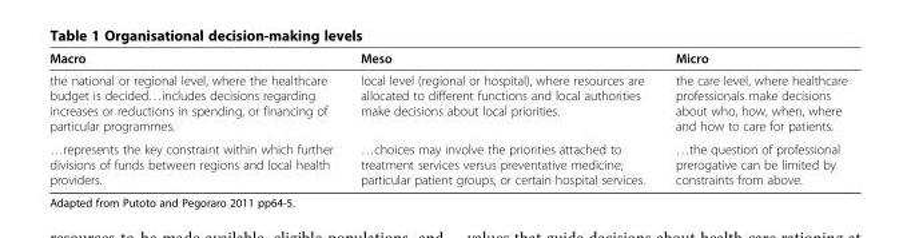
<table><thead><tr><td>Macro</td><td>Meso</td><td>Micro</td></tr></thead><tbody><tr><td>the national or regional level, where the healthcare budget is decided…includes decisions regarding increases or reductions in spending, or financing of particular programmes.</td><td>local level (regional or hospital), where resources are allocated to different functions and local authorities make decisions about local priorities.</td><td>the care level, where healthcare professionals make decisions about who, how, when, where and how to care for patients.</td></tr><tr><td>…represents the key constraint within which further divisions of funds between regions and local health providers.</td><td>…choices may involve the priorities attached to treatment services versus preventative medicine; particular patient groups, or certain hospital services.</td><td>…the question of professional prerogative can be limited by constraints from above.</td></tr></tbody></table>